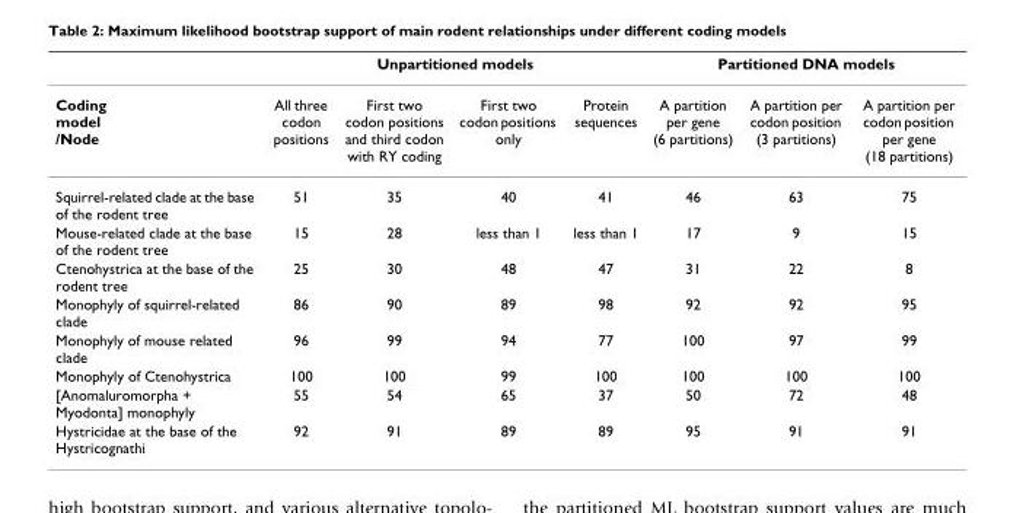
<table><thead><tr><td rowspan="2">Coding model /Node</td><td colspan="4">Unpartitioned models</td><td colspan="3">Partitioned DNA models</td></tr><tr><td>All three codon positions</td><td>First two codon positions and third codon with RY coding</td><td>First two codon positions only</td><td>Protein sequences</td><td>A partition per gene (6 partitions)</td><td>A partition per codon position (3 partitions)</td><td>A partition per codon position per gene (18 partitions)</td></tr></thead><tbody><tr><td>Squirrel-related clade at the base of the rodent tree</td><td>51</td><td>35</td><td>40</td><td>41</td><td>46</td><td>63</td><td>75</td></tr><tr><td>Mouse-related clade at the base of the rodent tree</td><td>15</td><td>28</td><td>less than 1</td><td>less than 1</td><td>17</td><td>9</td><td>15</td></tr><tr><td>Ctenohystrica at the base of the rodent tree</td><td>25</td><td>30</td><td>48</td><td>47</td><td>31</td><td>22</td><td>8</td></tr><tr><td>Monophyly of squirrel-related clade</td><td>86</td><td>90</td><td>89</td><td>98</td><td>92</td><td>92</td><td>95</td></tr><tr><td>Monophyly of mouse related clade</td><td>96</td><td>99</td><td>94</td><td>77</td><td>100</td><td>97</td><td>99</td></tr><tr><td>Monophyly of Ctenohystrica</td><td>100</td><td>100</td><td>99</td><td>100</td><td>100</td><td>100</td><td>100</td></tr><tr><td>[Anomaluromorpha + Myodonta] monophyly</td><td>55</td><td>54</td><td>65</td><td>37</td><td>50</td><td>72</td><td>48</td></tr><tr><td>Hystricidae at the base of the Hystricognathi</td><td>92</td><td>91</td><td>89</td><td>89</td><td>95</td><td>91</td><td>91</td></tr></tbody></table>